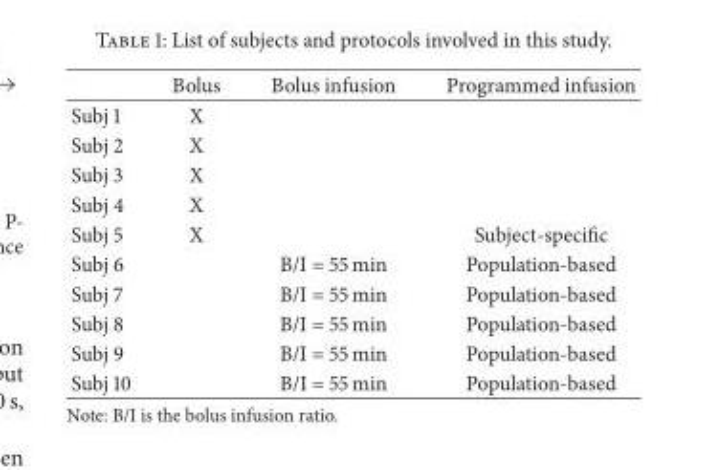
<table><thead><tr><td></td><td>Bolus</td><td>Bolus infusion</td><td>Programmed infusion</td></tr></thead><tbody><tr><td>Subj 1</td><td>X</td><td></td><td></td></tr><tr><td>Subj 2</td><td>X</td><td></td><td></td></tr><tr><td>Subj 3</td><td>X</td><td></td><td></td></tr><tr><td>Subj 4</td><td>X</td><td></td><td></td></tr><tr><td>Subj 5</td><td>X</td><td></td><td>Subject-specific</td></tr><tr><td>Subj 6</td><td></td><td>B/I = 55 min</td><td>Population-based</td></tr><tr><td>Subj 7</td><td></td><td>B/I = 55 min</td><td>Population-based</td></tr><tr><td>Subj 8</td><td></td><td>B/I = 55 min</td><td>Population-based</td></tr><tr><td>Subj 9</td><td></td><td>B/I = 55 min</td><td>Population-based</td></tr><tr><td>Subj 10</td><td></td><td>B/I = 55 min</td><td>Population-based</td></tr></tbody></table>